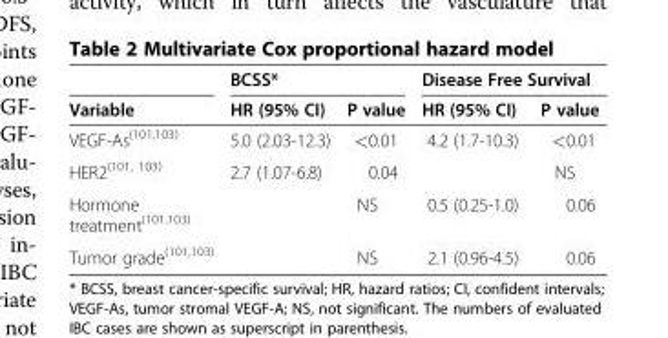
<table><thead><tr><td rowspan="2">Variable</td><td colspan="2">BCSS*</td><td colspan="2">Disease Free Survival</td></tr><tr><td>HR (95% CI)</td><td>P value</td><td>HR (95% CI)</td><td>P value</td></tr></thead><tbody><tr><td>VEGF-As<sup>(101,103)</sup></td><td>5.0 (2.03-12.3)</td><td>&lt;0.01</td><td>4.2 (1.7-10.3)</td><td>&lt;0.01</td></tr><tr><td>HER2<sup>(101, 103)</sup></td><td>2.7 (1.07-6.8)</td><td>0.04</td><td></td><td>NS</td></tr><tr><td>Hormone treatment<sup>(101,103)</sup></td><td></td><td>NS</td><td>0.5 (0.25-1.0)</td><td>0.06</td></tr><tr><td>Tumor grade<sup>(101,103)</sup></td><td></td><td>NS</td><td>2.1 (0.96-4.5)</td><td>0.06</td></tr></tbody></table>